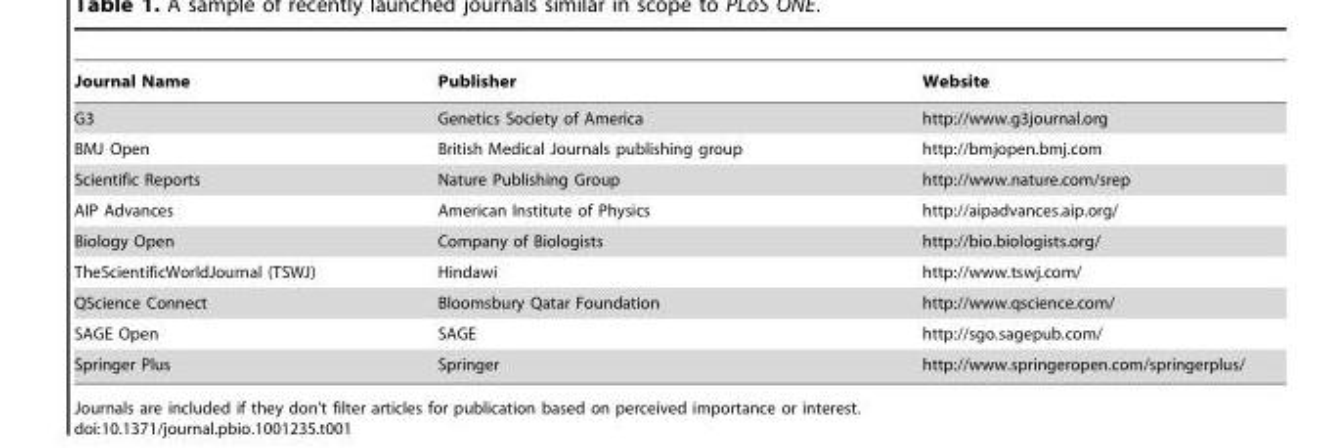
<table><thead><tr><td>Journal Name</td><td>Publisher</td><td>Website</td></tr></thead><tbody><tr><td>G3</td><td>Genetics Society of America</td><td>http://www.g3journal.org</td></tr><tr><td>BMJ Open</td><td>British Medical Journals publishing group</td><td>http://bmjopen.bmj.com</td></tr><tr><td>Scientific Reports</td><td>Nature Publishing Group</td><td>http://www.nature.com/srep</td></tr><tr><td>AIP Advances</td><td>American Institute of Physics</td><td>http://aipadvances.aip.org/</td></tr><tr><td>Biology Open</td><td>Company of Biologists</td><td>http://bio.biologists.org/</td></tr><tr><td>TheScientificWorldJournal (TSWJ)</td><td>Hindawi</td><td>http://www.tswj.com/</td></tr><tr><td>QScience Connect</td><td>Bloomsbury Qatar Foundation</td><td>http://www.qscience.com/</td></tr><tr><td>SAGE Open</td><td>SAGE</td><td>http://sgo.sagepub.com/</td></tr><tr><td>Springer Plus</td><td>Springer</td><td>http://www.springeropen.com/springerplus/</td></tr></tbody></table>